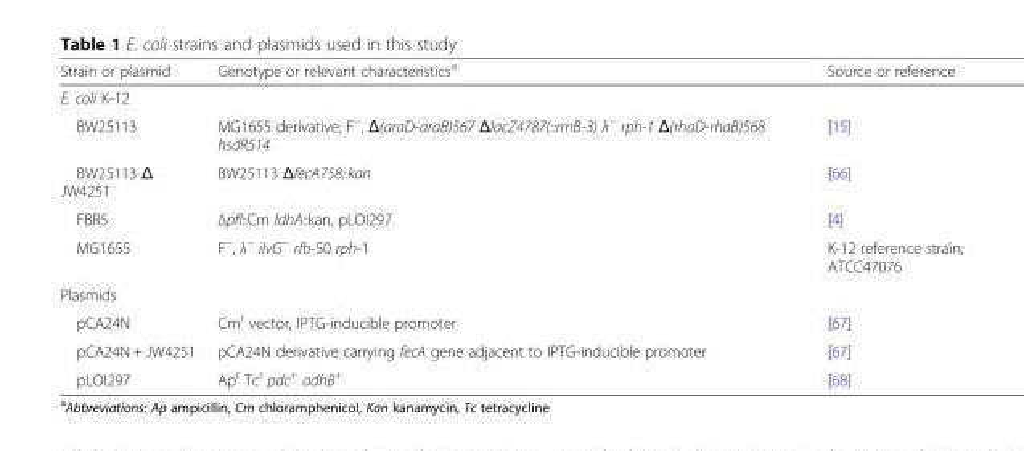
<table><thead><tr><td>Strain or plasmid</td><td>Genotype or relevant characteristics<sup>a</sup></td><td>Source or reference</td></tr></thead><tbody><tr><td colspan="3">E. coli K-12</td></tr><tr><td>BW25113</td><td>MG1655 derivative; F<sup>−</sup>, Δ(araD-araB)567 ΔlacZ4787(::rrnB-3) λ<sup>−</sup> rph-1 Δ(rhaD-rhaB)568 hsdR514</td><td>[15]</td></tr><tr><td>BW25113 Δ JW4251</td><td>BW25113 ΔfecA758::kan</td><td>[66]</td></tr><tr><td>FBR5</td><td>Δpfl::Cm ldhA::kan, pLOI297</td><td>[4]</td></tr><tr><td>MG1655</td><td>F<sup>−</sup>, λ<sup>−</sup> ilvG<sup>−</sup> rfb-50 rph-1</td><td>K-12 reference strain; ATCC47076</td></tr><tr><td colspan="3">Plasmids</td></tr><tr><td>pCA24N</td><td>Cm<sup>r</sup> vector, IPTG-inducible promoter</td><td>[67]</td></tr><tr><td>pCA24N + JW4251</td><td>pCA24N derivative carrying fecA gene adjacent to IPTG-inducible promoter</td><td>[67]</td></tr><tr><td>pLOI297</td><td>Ap<sup>r</sup> Tc<sup>r</sup> pdc<sup>+</sup> adhB<sup>+</sup></td><td>[68]</td></tr></tbody></table>